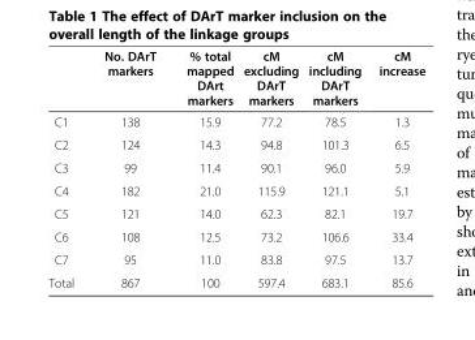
<table><thead><tr><td></td><td>No. DArT markers</td><td>% total mapped DArt markers</td><td>cM excluding DArT markers</td><td>cM including DArT markers</td><td>cM increase</td></tr></thead><tbody><tr><td>C1</td><td>138</td><td>15.9</td><td>77.2</td><td>78.5</td><td>1.3</td></tr><tr><td>C2</td><td>124</td><td>14.3</td><td>94.8</td><td>101.3</td><td>6.5</td></tr><tr><td>C3</td><td>99</td><td>11.4</td><td>90.1</td><td>96.0</td><td>5.9</td></tr><tr><td>C4</td><td>182</td><td>21.0</td><td>115.9</td><td>121.1</td><td>5.1</td></tr><tr><td>C5</td><td>121</td><td>14.0</td><td>62.3</td><td>82.1</td><td>19.7</td></tr><tr><td>C6</td><td>108</td><td>12.5</td><td>73.2</td><td>106.6</td><td>33.4</td></tr><tr><td>C7</td><td>95</td><td>11.0</td><td>83.8</td><td>97.5</td><td>13.7</td></tr><tr><td>Total</td><td>867</td><td>100</td><td>597.4</td><td>683.1</td><td>85.6</td></tr></tbody></table>